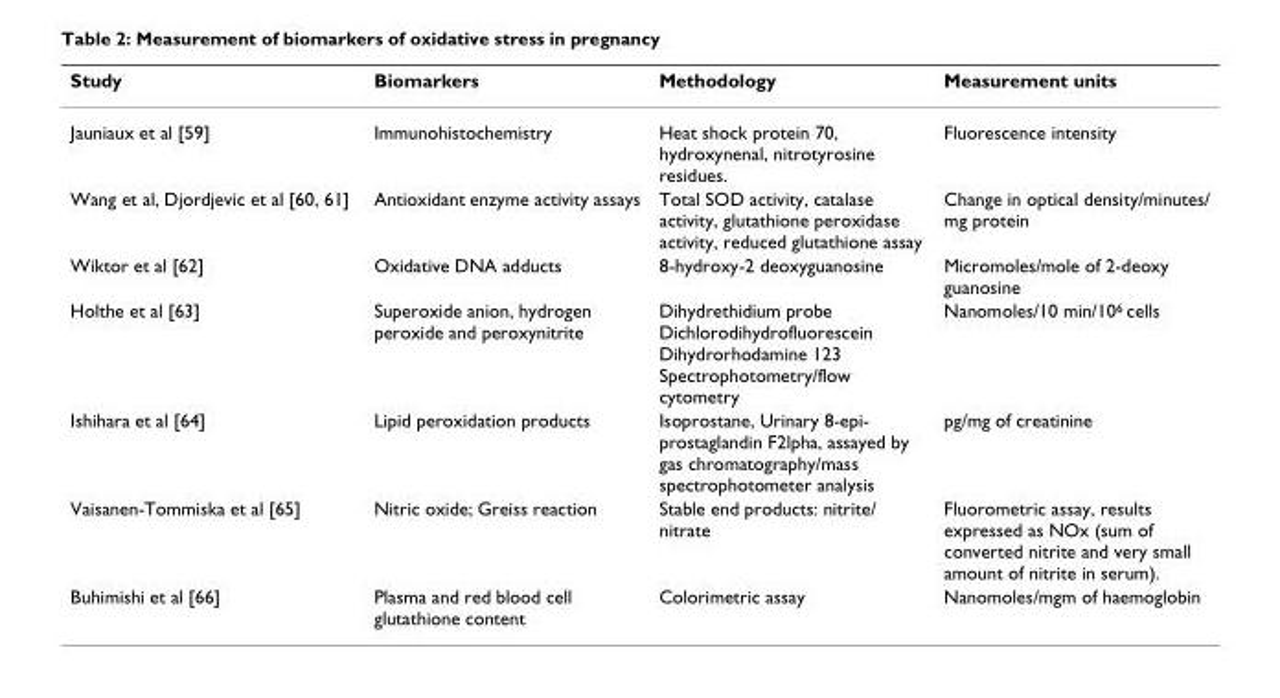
<table><thead><tr><td>Study</td><td>Biomarkers</td><td>Methodology</td><td>Measurement units</td></tr></thead><tbody><tr><td>Jauniaux et al [59]</td><td>Immunohistochemistry</td><td>Heat shock protein 70, hydroxynenal, nitrotyrosine residues.</td><td>Fluorescence intensity</td></tr><tr><td>Wang et al, Djordjevic et al [60, 61]</td><td>Antioxidant enzyme activity assays</td><td>Total SOD activity, catalase activity, glutathione peroxidase activity, reduced glutathione assay</td><td>Change in optical density/minutes/ mg protein</td></tr><tr><td>Wiktor et al [62]</td><td>Oxidative DNA adducts</td><td>8-hydroxy-2 deoxyguanosine</td><td>Micromoles/mole of 2-deoxy guanosine</td></tr><tr><td>Holthe et al [63]</td><td>Superoxide anion, hydrogen peroxide and peroxynitrite</td><td>Dihydrethidium probe Dichlorodihydrofluorescein Dihydrorhodamine 123 Spectrophotometry/flow cytometry</td><td>Nanomoles/10 min/10<sup>6</sup> cells</td></tr><tr><td>Ishihara et al [64]</td><td>Lipid peroxidation products</td><td>Isoprostane, Urinary 8-epi- prostaglandin F2lpha, assayed by gas chromatography/mass spectrophotometer analysis</td><td>pg/mg of creatinine</td></tr><tr><td>Vaisanen-Tommiska et al [65]</td><td>Nitric oxide; Greiss reaction</td><td>Stable end products: nitrite/ nitrate</td><td>Fluorometric assay, results expressed as NOx (sum of converted nitrite and very small amount of nitrite in serum).</td></tr><tr><td>Buhimishi et al [66]</td><td>Plasma and red blood cell glutathione content</td><td>Colorimetric assay</td><td>Nanomoles/mgm of haemoglobin</td></tr></tbody></table>